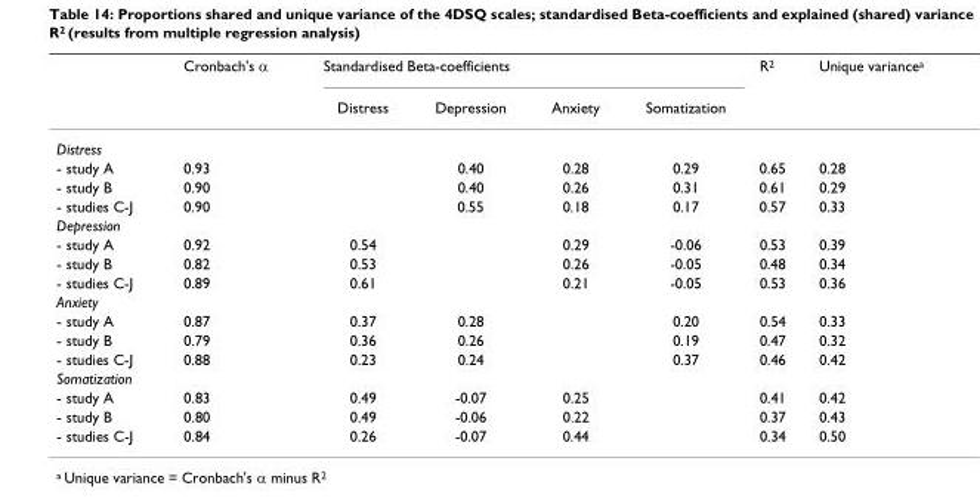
<table><thead><tr><td rowspan="2"></td><td rowspan="2">Cronbach&#x27;s α</td><td colspan="4">Standardised Beta-coefficients</td><td rowspan="2">R<sup>2</sup></td><td rowspan="2">Unique variance<sup>a</sup></td></tr><tr><td>Distress</td><td>Depression</td><td>Anxiety</td><td>Somatization</td></tr></thead><tbody><tr><td colspan="8">Distress</td></tr><tr><td>- study A</td><td>0.93</td><td></td><td>0.40</td><td>0.28</td><td>0.29</td><td>0.65</td><td>0.28</td></tr><tr><td>- study B</td><td>0.90</td><td></td><td>0.40</td><td>0.26</td><td>0.31</td><td>0.61</td><td>0.29</td></tr><tr><td>- studies C-J</td><td>0.90</td><td></td><td>0.55</td><td>0.18</td><td>0.17</td><td>0.57</td><td>0.33</td></tr><tr><td colspan="8">Depression</td></tr><tr><td>- study A</td><td>0.92</td><td>0.54</td><td></td><td>0.29</td><td>-0.06</td><td>0.53</td><td>0.39</td></tr><tr><td>- study B</td><td>0.82</td><td>0.53</td><td></td><td>0.26</td><td>-0.05</td><td>0.48</td><td>0.34</td></tr><tr><td>- studies C-J</td><td>0.89</td><td>0.61</td><td></td><td>0.21</td><td>-0.05</td><td>0.53</td><td>0.36</td></tr><tr><td colspan="8">Anxiety</td></tr><tr><td>- study A</td><td>0.87</td><td>0.37</td><td>0.28</td><td></td><td>0.20</td><td>0.54</td><td>0.33</td></tr><tr><td>- study B</td><td>0.79</td><td>0.36</td><td>0.26</td><td></td><td>0.19</td><td>0.47</td><td>0.32</td></tr><tr><td>- studies C-J</td><td>0.88</td><td>0.23</td><td>0.24</td><td></td><td>0.37</td><td>0.46</td><td>0.42</td></tr><tr><td colspan="8">Somatization</td></tr><tr><td>- study A</td><td>0.83</td><td>0.49</td><td>-0.07</td><td>0.25</td><td></td><td>0.41</td><td>0.42</td></tr><tr><td>- study B</td><td>0.80</td><td>0.49</td><td>-0.06</td><td>0.22</td><td></td><td>0.37</td><td>0.43</td></tr><tr><td>- studies C-J</td><td>0.84</td><td>0.26</td><td>-0.07</td><td>0.44</td><td></td><td>0.34</td><td>0.50</td></tr></tbody></table>